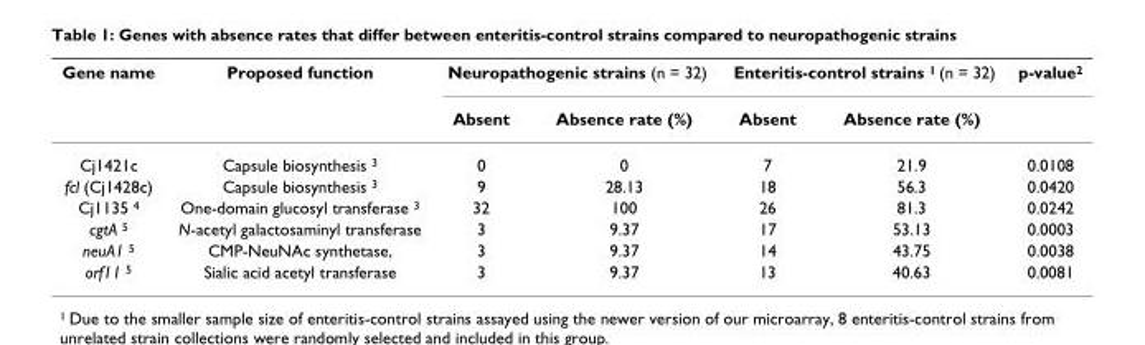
<table><thead><tr><td rowspan="2">Gene name</td><td rowspan="2">Proposed function</td><td colspan="2">Neuropathogenic strains (n = 32)</td><td colspan="2">Enteritis-control strains <sup>1</sup> (n = 32)</td><td rowspan="2">p-value<sup>2</sup></td></tr><tr><td>Absent</td><td>Absence rate (%)</td><td>Absent</td><td>Absence rate (%)</td></tr></thead><tbody><tr><td>Cj1421c</td><td>Capsule biosynthesis <sup>3</sup></td><td>0</td><td>0</td><td>7</td><td>21.9</td><td>0.0108</td></tr><tr><td>fcl (Cj1428c)</td><td>Capsule biosynthesis <sup>3</sup></td><td>9</td><td>28.13</td><td>18</td><td>56.3</td><td>0.0420</td></tr><tr><td>Cj1135 <sup>4</sup></td><td>One-domain glucosyl transferase <sup>3</sup></td><td>32</td><td>100</td><td>26</td><td>81.3</td><td>0.0242</td></tr><tr><td>cgtA <sup>5</sup></td><td>N-acetyl galactosaminyl transferase</td><td>3</td><td>9.37</td><td>17</td><td>53.13</td><td>0.0003</td></tr><tr><td>neuA1 <sup>5</sup></td><td>CMP-NeuNAc synthetase,</td><td>3</td><td>9.37</td><td>14</td><td>43.75</td><td>0.0038</td></tr><tr><td>orf11 <sup>5</sup></td><td>Sialic acid acetyl transferase</td><td>3</td><td>9.37</td><td>13</td><td>40.63</td><td>0.0081</td></tr></tbody></table>